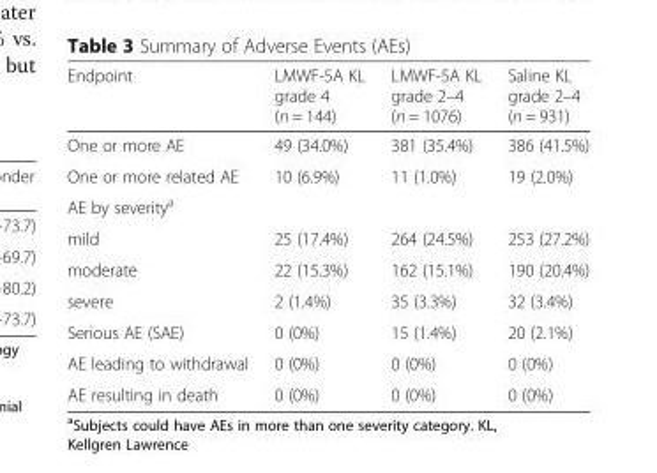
<table><thead><tr><td>Endpoint</td><td>LMWF-5A KL grade 4 (n = 144)</td><td>LMWF-5A KL grade 2–4 (n = 1076)</td><td>Saline KL grade 2–4 (n = 931)</td></tr></thead><tbody><tr><td>One or more AE</td><td>49 (34.0%)</td><td>381 (35.4%)</td><td>386 (41.5%)</td></tr><tr><td>One or more related AE</td><td>10 (6.9%)</td><td>11 (1.0%)</td><td>19 (2.0%)</td></tr><tr><td colspan="4">AE by severity<sup>a</sup></td></tr><tr><td>mild</td><td>25 (17.4%)</td><td>264 (24.5%)</td><td>253 (27.2%)</td></tr><tr><td>moderate</td><td>22 (15.3%)</td><td>162 (15.1%)</td><td>190 (20.4%)</td></tr><tr><td>severe</td><td>2 (1.4%)</td><td>35 (3.3%)</td><td>32 (3.4%)</td></tr><tr><td>Serious AE (SAE)</td><td>0 (0%)</td><td>15 (1.4%)</td><td>20 (2.1%)</td></tr><tr><td>AE leading to withdrawal</td><td>0 (0%)</td><td>0 (0%)</td><td>0 (0%)</td></tr><tr><td>AE resulting in death</td><td>0 (0%)</td><td>0 (0%)</td><td>0 (0%)</td></tr></tbody></table>